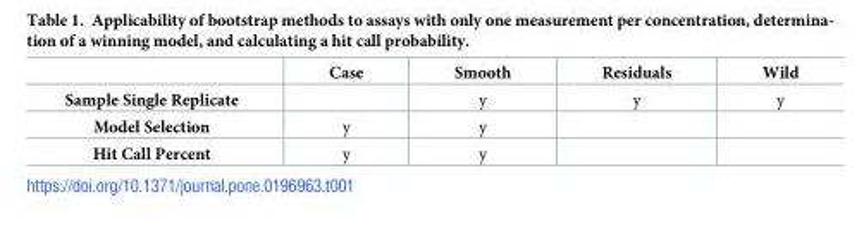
<table><thead><tr><td></td><td>Case</td><td>Smooth</td><td>Residuals</td><td>Wild</td></tr></thead><tbody><tr><td>Sample Single Replicate</td><td></td><td>y</td><td>y</td><td>y</td></tr><tr><td>Model Selection</td><td>y</td><td>y</td><td></td><td></td></tr><tr><td>Hit Call Percent</td><td>y</td><td>y</td><td></td><td></td></tr></tbody></table>